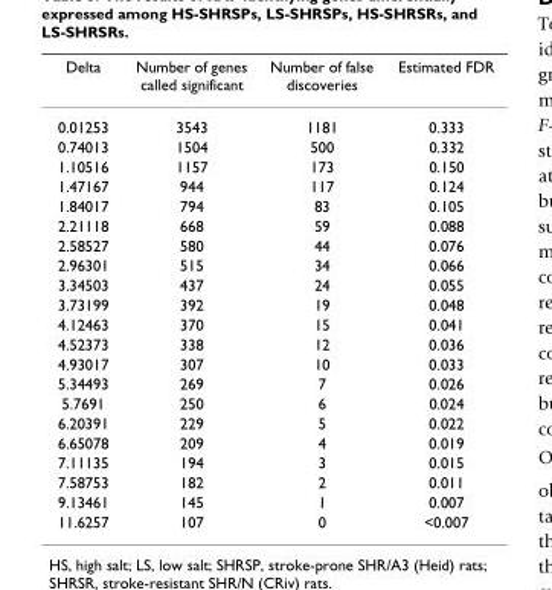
<table><thead><tr><td>Delta</td><td>Number of genes called significant</td><td>Number of false discoveries</td><td>Estimated FDR</td></tr></thead><tbody><tr><td>0.01253</td><td>3543</td><td>1181</td><td>0.333</td></tr><tr><td>0.74013</td><td>1504</td><td>500</td><td>0.332</td></tr><tr><td>1.10516</td><td>1157</td><td>173</td><td>0.150</td></tr><tr><td>1.47167</td><td>944</td><td>117</td><td>0.124</td></tr><tr><td>1.84017</td><td>794</td><td>83</td><td>0.105</td></tr><tr><td>2.21118</td><td>668</td><td>59</td><td>0.088</td></tr><tr><td>2.58527</td><td>580</td><td>44</td><td>0.076</td></tr><tr><td>2.96301</td><td>515</td><td>34</td><td>0.066</td></tr><tr><td>3.34503</td><td>437</td><td>24</td><td>0.055</td></tr><tr><td>3.73199</td><td>392</td><td>19</td><td>0.048</td></tr><tr><td>4.12463</td><td>370</td><td>15</td><td>0.041</td></tr><tr><td>4.52373</td><td>338</td><td>12</td><td>0.036</td></tr><tr><td>4.93017</td><td>307</td><td>10</td><td>0.033</td></tr><tr><td>5.34493</td><td>269</td><td>7</td><td>0.026</td></tr><tr><td>5.7691</td><td>250</td><td>6</td><td>0.024</td></tr><tr><td>6.20391</td><td>229</td><td>5</td><td>0.022</td></tr><tr><td>6.65078</td><td>209</td><td>4</td><td>0.019</td></tr><tr><td>7.11135</td><td>194</td><td>3</td><td>0.015</td></tr><tr><td>7.58753</td><td>182</td><td>2</td><td>0.011</td></tr><tr><td>9.13461</td><td>145</td><td>1</td><td>0.007</td></tr><tr><td>11.6257</td><td>107</td><td>0</td><td>&lt;0.007</td></tr></tbody></table>